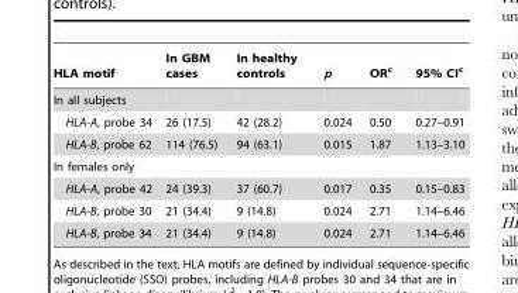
<table><thead><tr><td>HLA motif</td><td>In GBM cases</td><td>In healthy controls</td><td>p</td><td>OR<sup>c</sup></td><td>95% CI<sup>c</sup></td></tr></thead><tbody><tr><td colspan="6">In all subjects</td></tr><tr><td>HLA-A, probe 34</td><td>26 (17.5)</td><td>42 (28.2)</td><td>0.024</td><td>0.50</td><td>0.27–0.91</td></tr><tr><td>HLA-B, probe 62</td><td>114 (76.5)</td><td>94 (63.1)</td><td>0.015</td><td>1.87</td><td>1.13–3.10</td></tr><tr><td colspan="6">In females only</td></tr><tr><td>HLA-A, probe 42</td><td>24 (39.3)</td><td>37 (60.7)</td><td>0.017</td><td>0.35</td><td>0.15–0.83</td></tr><tr><td>HLA-B, probe 30</td><td>21 (34.4)</td><td>9 (14.8)</td><td>0.024</td><td>2.71</td><td>1.14–6.46</td></tr><tr><td>HLA-B, probe 34</td><td>21 (34.4)</td><td>9 (14.8)</td><td>0.024</td><td>2.71</td><td>1.14–6.46</td></tr></tbody></table>